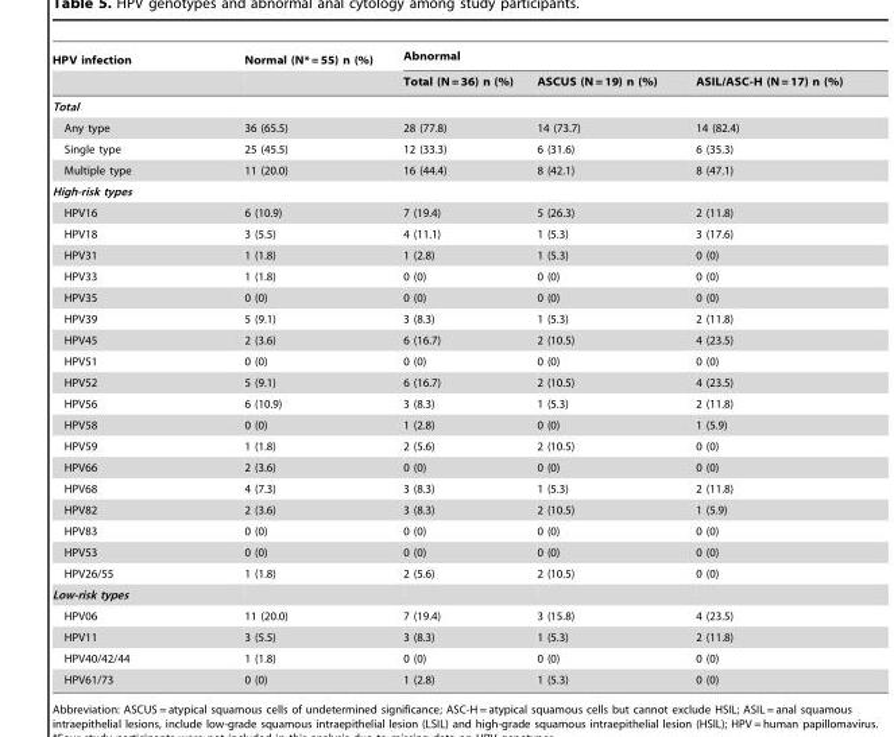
<table><thead><tr><td rowspan="2">HPV infection</td><td rowspan="2">Normal (N* = 55) n (%)</td><td colspan="3">Abnormal</td></tr><tr><td>Total (N = 36) n (%)</td><td>ASCUS (N = 19) n (%)</td><td>ASIL/ASC-H (N = 17) n (%)</td></tr></thead><tbody><tr><td colspan="5">Total</td></tr><tr><td>Any type</td><td>36 (65.5)</td><td>28 (77.8)</td><td>14 (73.7)</td><td>14 (82.4)</td></tr><tr><td>Single type</td><td>25 (45.5)</td><td>12 (33.3)</td><td>6 (31.6)</td><td>6 (35.3)</td></tr><tr><td>Multiple type</td><td>11 (20.0)</td><td>16 (44.4)</td><td>8 (42.1)</td><td>8 (47.1)</td></tr><tr><td colspan="5">High-risk types</td></tr><tr><td>HPV16</td><td>6 (10.9)</td><td>7 (19.4)</td><td>5 (26.3)</td><td>2 (11.8)</td></tr><tr><td>HPV18</td><td>3 (5.5)</td><td>4 (11.1)</td><td>1 (5.3)</td><td>3 (17.6)</td></tr><tr><td>HPV31</td><td>1 (1.8)</td><td>1 (2.8)</td><td>1 (5.3)</td><td>0 (0)</td></tr><tr><td>HPV33</td><td>1 (1.8)</td><td>0 (0)</td><td>0 (0)</td><td>0 (0)</td></tr><tr><td>HPV35</td><td>0 (0)</td><td>0 (0)</td><td>0 (0)</td><td>0 (0)</td></tr><tr><td>HPV39</td><td>5 (9.1)</td><td>3 (8.3)</td><td>1 (5.3)</td><td>2 (11.8)</td></tr><tr><td>HPV45</td><td>2 (3.6)</td><td>6 (16.7)</td><td>2 (10.5)</td><td>4 (23.5)</td></tr><tr><td>HPV51</td><td>0 (0)</td><td>0 (0)</td><td>0 (0)</td><td>0 (0)</td></tr><tr><td>HPV52</td><td>5 (9.1)</td><td>6 (16.7)</td><td>2 (10.5)</td><td>4 (23.5)</td></tr><tr><td>HPV56</td><td>6 (10.9)</td><td>3 (8.3)</td><td>1 (5.3)</td><td>2 (11.8)</td></tr><tr><td>HPV58</td><td>0 (0)</td><td>1 (2.8)</td><td>0 (0)</td><td>1 (5.9)</td></tr><tr><td>HPV59</td><td>1 (1.8)</td><td>2 (5.6)</td><td>2 (10.5)</td><td>0 (0)</td></tr><tr><td>HPV66</td><td>2 (3.6)</td><td>0 (0)</td><td>0 (0)</td><td>0 (0)</td></tr><tr><td>HPV68</td><td>4 (7.3)</td><td>3 (8.3)</td><td>1 (5.3)</td><td>2 (11.8)</td></tr><tr><td>HPV82</td><td>2 (3.6)</td><td>3 (8.3)</td><td>2 (10.5)</td><td>1 (5.9)</td></tr><tr><td>HPV83</td><td>0 (0)</td><td>0 (0)</td><td>0 (0)</td><td>0 (0)</td></tr><tr><td>HPV53</td><td>0 (0)</td><td>0 (0)</td><td>0 (0)</td><td>0 (0)</td></tr><tr><td>HPV26/55</td><td>1 (1.8)</td><td>2 (5.6)</td><td>2 (10.5)</td><td>0 (0)</td></tr><tr><td colspan="5">Low-risk types</td></tr><tr><td>HPV06</td><td>11 (20.0)</td><td>7 (19.4)</td><td>3 (15.8)</td><td>4 (23.5)</td></tr><tr><td>HPV11</td><td>3 (5.5)</td><td>3 (8.3)</td><td>1 (5.3)</td><td>2 (11.8)</td></tr><tr><td>HPV40/42/44</td><td>1 (1.8)</td><td>0 (0)</td><td>0 (0)</td><td>0 (0)</td></tr><tr><td>HPV61/73</td><td>0 (0)</td><td>1 (2.8)</td><td>1 (5.3)</td><td>0 (0)</td></tr></tbody></table>